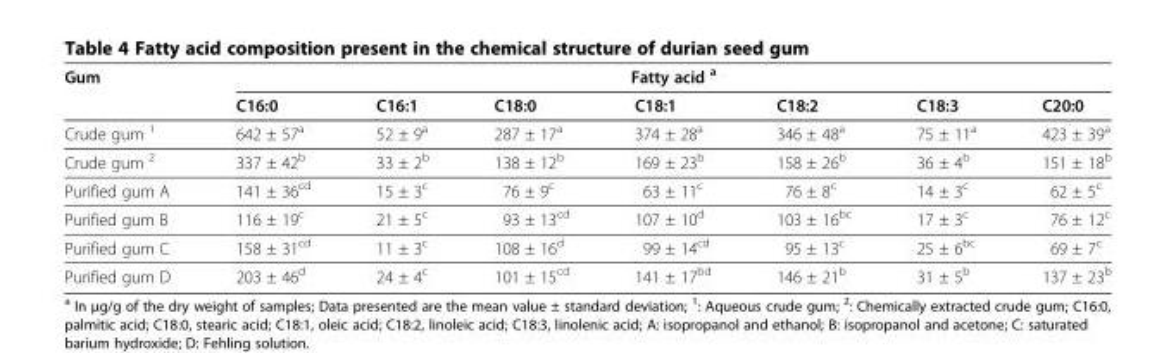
<table><thead><tr><td rowspan="2">Gum</td><td colspan="7">Fatty acid <sup>a</sup></td></tr><tr><td>C16:0</td><td>C16:1</td><td>C18:0</td><td>C18:1</td><td>C18:2</td><td>C18:3</td><td>C20:0</td></tr></thead><tbody><tr><td>Crude gum <sup>1</sup></td><td>642 ± 57<sup>a</sup></td><td>52 ± 9<sup>a</sup></td><td>287 ± 17<sup>a</sup></td><td>374 ± 28<sup>a</sup></td><td>346 ± 48<sup>a</sup></td><td>75 ± 11<sup>a</sup></td><td>423 ± 39<sup>a</sup></td></tr><tr><td>Crude gum <sup>2</sup></td><td>337 ± 42<sup>b</sup></td><td>33 ± 2<sup>b</sup></td><td>138 ± 12<sup>b</sup></td><td>169 ± 23<sup>b</sup></td><td>158 ± 26<sup>b</sup></td><td>36 ± 4<sup>b</sup></td><td>151 ± 18<sup>b</sup></td></tr><tr><td>Purified gum A</td><td>141 ± 36<sup>cd</sup></td><td>15 ± 3<sup>c</sup></td><td>76 ± 9<sup>c</sup></td><td>63 ± 11<sup>c</sup></td><td>76 ± 8<sup>c</sup></td><td>14 ± 3<sup>c</sup></td><td>62 ± 5<sup>c</sup></td></tr><tr><td>Purified gum B</td><td>116 ± 19<sup>c</sup></td><td>21 ± 5<sup>c</sup></td><td>93 ± 13<sup>cd</sup></td><td>107 ± 10<sup>d</sup></td><td>103 ± 16<sup>bc</sup></td><td>17 ± 3<sup>c</sup></td><td>76 ± 12<sup>c</sup></td></tr><tr><td>Purified gum C</td><td>158 ± 31<sup>cd</sup></td><td>11 ± 3<sup>c</sup></td><td>108 ± 16<sup>d</sup></td><td>99 ± 14<sup>cd</sup></td><td>95 ± 13<sup>c</sup></td><td>25 ± 6<sup>bc</sup></td><td>69 ± 7<sup>c</sup></td></tr><tr><td>Purified gum D</td><td>203 ± 46<sup>d</sup></td><td>24 ± 4<sup>c</sup></td><td>101 ± 15<sup>cd</sup></td><td>141 ± 17<sup>bd</sup></td><td>146 ± 21<sup>b</sup></td><td>31 ± 5<sup>b</sup></td><td>137 ± 23<sup>b</sup></td></tr></tbody></table>